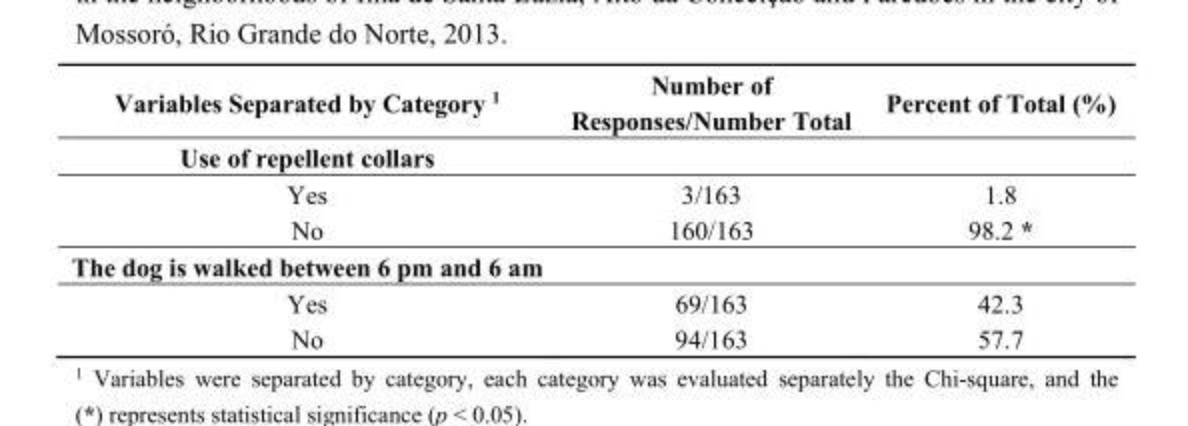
<table><thead><tr><td>Variables Separated by Category <sup>1</sup></td><td>Number of Responses/Number Total</td><td>Percent of Total (%)</td></tr></thead><tbody><tr><td colspan="3">Use of repellent collars</td></tr><tr><td>Yes</td><td>3/163</td><td>1.8</td></tr><tr><td>No</td><td>160/163</td><td>98.2 *</td></tr><tr><td colspan="3">The dog is walked between 6 pm and 6 am</td></tr><tr><td>Yes</td><td>69/163</td><td>42.3</td></tr><tr><td>No</td><td>94/163</td><td>57.7</td></tr></tbody></table>